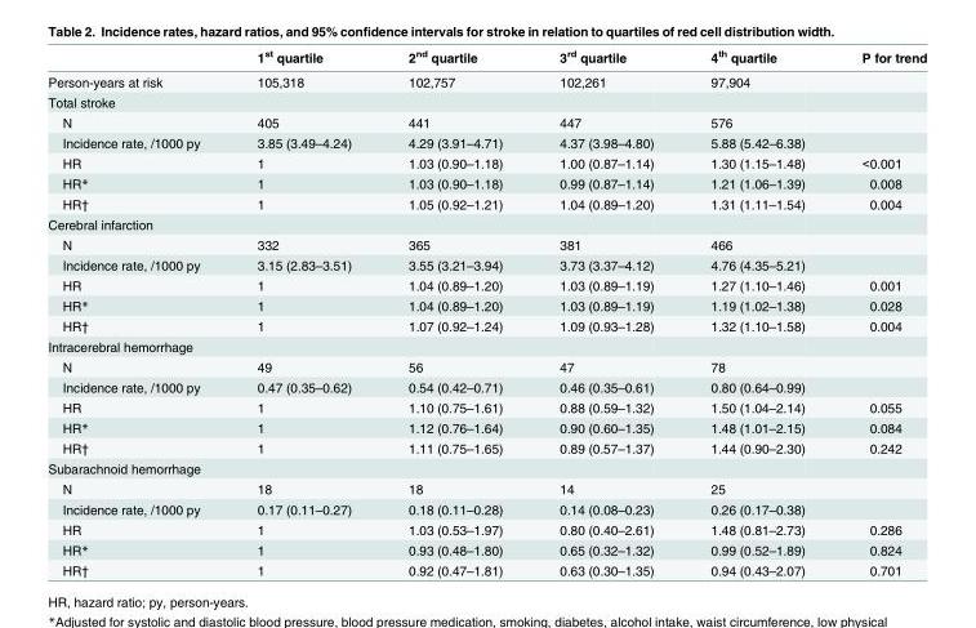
<table><thead><tr><td></td><td>1<sup>st</sup> quartile</td><td>2<sup>nd</sup> quartile</td><td>3<sup>rd</sup> quartile</td><td>4<sup>th</sup> quartile</td><td>P for trend</td></tr></thead><tbody><tr><td>Person-years at risk</td><td>105,318</td><td>102,757</td><td>102,261</td><td>97,904</td><td></td></tr><tr><td colspan="6">Total stroke</td></tr><tr><td>N</td><td>405</td><td>441</td><td>447</td><td>576</td><td></td></tr><tr><td>Incidence rate, /1000 py</td><td>3.85 (3.49–4.24)</td><td>4.29 (3.91–4.71)</td><td>4.37 (3.98–4.80)</td><td>5.88 (5.42–6.38)</td><td></td></tr><tr><td>HR</td><td>1</td><td>1.03 (0.90–1.18)</td><td>1.00 (0.87–1.14)</td><td>1.30 (1.15–1.48)</td><td>&lt;0.001</td></tr><tr><td>HR*</td><td>1</td><td>1.03 (0.90–1.18)</td><td>0.99 (0.87–1.14)</td><td>1.21 (1.06–1.39)</td><td>0.008</td></tr><tr><td>HR†</td><td>1</td><td>1.05 (0.92–1.21)</td><td>1.04 (0.89–1.20)</td><td>1.31 (1.11–1.54)</td><td>0.004</td></tr><tr><td colspan="6">Cerebral infarction</td></tr><tr><td>N</td><td>332</td><td>365</td><td>381</td><td>466</td><td></td></tr><tr><td>Incidence rate, /1000 py</td><td>3.15 (2.83–3.51)</td><td>3.55 (3.21–3.94)</td><td>3.73 (3.37–4.12)</td><td>4.76 (4.35–5.21)</td><td></td></tr><tr><td>HR</td><td>1</td><td>1.04 (0.89–1.20)</td><td>1.03 (0.89–1.19)</td><td>1.27 (1.10–1.46)</td><td>0.001</td></tr><tr><td>HR*</td><td>1</td><td>1.04 (0.89–1.20)</td><td>1.03 (0.89–1.19)</td><td>1.19 (1.02–1.38)</td><td>0.028</td></tr><tr><td>HR†</td><td>1</td><td>1.07 (0.92–1.24)</td><td>1.09 (0.93–1.28)</td><td>1.32 (1.10–1.58)</td><td>0.004</td></tr><tr><td colspan="6">Intracerebral hemorrhage</td></tr><tr><td>N</td><td>49</td><td>56</td><td>47</td><td>78</td><td></td></tr><tr><td>Incidence rate, /1000 py</td><td>0.47 (0.35–0.62)</td><td>0.54 (0.42–0.71)</td><td>0.46 (0.35–0.61)</td><td>0.80 (0.64–0.99)</td><td></td></tr><tr><td>HR</td><td>1</td><td>1.10 (0.75–1.61)</td><td>0.88 (0.59–1.32)</td><td>1.50 (1.04–2.14)</td><td>0.055</td></tr><tr><td>HR*</td><td>1</td><td>1.12 (0.76–1.64)</td><td>0.90 (0.60–1.35)</td><td>1.48 (1.01–2.15)</td><td>0.084</td></tr><tr><td>HR†</td><td>1</td><td>1.11 (0.75–1.65)</td><td>0.89 (0.57–1.37)</td><td>1.44 (0.90–2.30)</td><td>0.242</td></tr><tr><td colspan="6">Subarachnoid hemorrhage</td></tr><tr><td>N</td><td>18</td><td>18</td><td>14</td><td>25</td><td></td></tr><tr><td>Incidence rate, /1000 py</td><td>0.17 (0.11–0.27)</td><td>0.18 (0.11–0.28)</td><td>0.14 (0.08–0.23)</td><td>0.26 (0.17–0.38)</td><td></td></tr><tr><td>HR</td><td>1</td><td>1.03 (0.53–1.97)</td><td>0.80 (0.40–2.61)</td><td>1.48 (0.81–2.73)</td><td>0.286</td></tr><tr><td>HR*</td><td>1</td><td>0.93 (0.48–1.80)</td><td>0.65 (0.32–1.32)</td><td>0.99 (0.52–1.89)</td><td>0.824</td></tr><tr><td>HR†</td><td>1</td><td>0.92 (0.47–1.81)</td><td>0.63 (0.30–1.35)</td><td>0.94 (0.43–2.07)</td><td>0.701</td></tr></tbody></table>